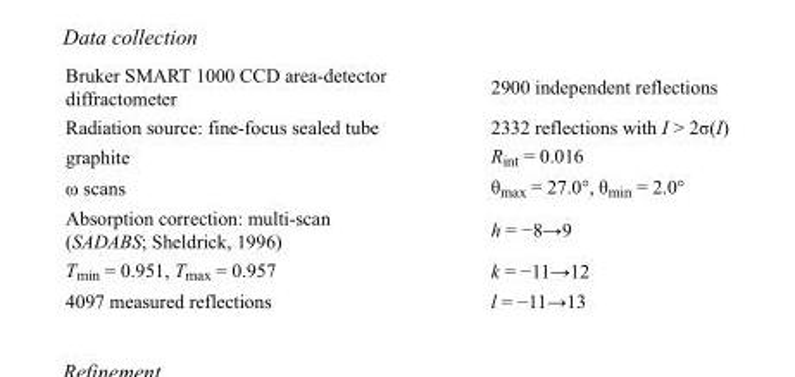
<table><tbody><tr><td>Bruker SMART 1000 CCD area-detector diffractometer</td><td>2900 independent reflections</td></tr><tr><td>Radiation source: fine-focus sealed tube</td><td>2332 reflections with I &gt; 2σ(I)</td></tr><tr><td>graphite</td><td>R<sub>int</sub> = 0.016</td></tr><tr><td>ω scans</td><td>θ<sub>max</sub> = 27.0°, θ<sub>min</sub> = 2.0°</td></tr><tr><td>Absorption correction: multi-scan (SADABS; Sheldrick, 1996)</td><td>h = −8→9</td></tr><tr><td>T<sub>min</sub> = 0.951, T<sub>max</sub> = 0.957</td><td>k = −11→12</td></tr><tr><td>4097 measured reflections</td><td>l = −11→13</td></tr></tbody></table>